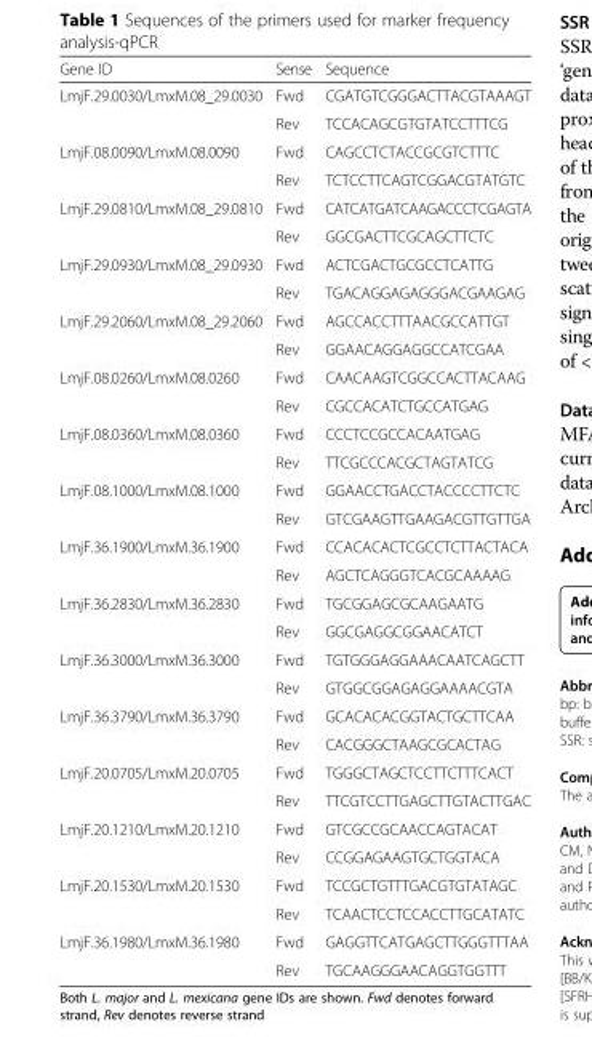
<table><thead><tr><td>Gene ID</td><td>Sense</td><td>Sequence</td></tr></thead><tbody><tr><td rowspan="2">LmjF.29.0030/LmxM.08_29.0030</td><td>Fwd</td><td>CGATGTCGGGACTTACGTAAAGT</td></tr><tr><td>Rev</td><td>TCCACAGCGTGTATCCTTTCG</td></tr><tr><td rowspan="2">LmjF.08.0090/LmxM.08.0090</td><td>Fwd</td><td>CAGCCTCTACCGCGTCTTTC</td></tr><tr><td>Rev</td><td>TCTCCTTCAGTCGGACGTATGTC</td></tr><tr><td rowspan="2">LmjF.29.0810/LmxM.08_29.0810</td><td>Fwd</td><td>CATCATGATCAAGACCCTCGAGTA</td></tr><tr><td>Rev</td><td>GGCGACTTCGCAGCTTCTC</td></tr><tr><td rowspan="2">LmjF.29.0930/LmxM.08_29.0930</td><td>Fwd</td><td>ACTCGACTGCGCCTCATTG</td></tr><tr><td>Rev</td><td>TGACAGGAGAGGGACGAAGAG</td></tr><tr><td rowspan="2">LmjF.29.2060/LmxM.08_29.2060</td><td>Fwd</td><td>AGCCACCTTTAACGCCATTGT</td></tr><tr><td>Rev</td><td>GGAACAGGAGGCCATCGAA</td></tr><tr><td rowspan="2">LmjF.08.0260/LmxM.08.0260</td><td>Fwd</td><td>CAACAAGTCGGCCACTTACAAG</td></tr><tr><td>Rev</td><td>CGCCACATCTGCCATGAG</td></tr><tr><td rowspan="2">LmjF.08.0360/LmxM.08.0360</td><td>Fwd</td><td>CCCTCCGCCACAATGAG</td></tr><tr><td>Rev</td><td>TTCGCCCACGCTAGTATCG</td></tr><tr><td rowspan="2">LmjF.08.1000/LmxM.08.1000</td><td>Fwd</td><td>GGAACCTGACCTACCCCTTCTC</td></tr><tr><td>Rev</td><td>GTCGAAGTTGAAGACGTTGTTGA</td></tr><tr><td rowspan="2">LmjF.36.1900/LmxM.36.1900</td><td>Fwd</td><td>CCACACACTCGCCTCTTACTACA</td></tr><tr><td>Rev</td><td>AGCTCAGGGTCACGCAAAAG</td></tr><tr><td rowspan="2">LmjF.36.2830/LmxM.36.2830</td><td>Fwd</td><td>TGCGGAGCGCAAGAATG</td></tr><tr><td>Rev</td><td>GGCGAGGCGGAACATCT</td></tr><tr><td rowspan="2">LmjF.36.3000/LmxM.36.3000</td><td>Fwd</td><td>TGTGGGAGGAAACAATCAGCTT</td></tr><tr><td>Rev</td><td>GTGGCGGAGAGGAAAACGTA</td></tr><tr><td rowspan="2">LmjF.36.3790/LmxM.36.3790</td><td>Fwd</td><td>GCACACACGGTACTGCTTCAA</td></tr><tr><td>Rev</td><td>CACGGGCTAAGCGCACTAG</td></tr><tr><td rowspan="2">LmjF.20.0705/LmxM.20.0705</td><td>Fwd</td><td>TGGGCTAGCTCCTTCTTTCACT</td></tr><tr><td>Rev</td><td>TTCGTCCTTGAGCTTGTACTTGAC</td></tr><tr><td rowspan="2">LmjF.20.1210/LmxM.20.1210</td><td>Fwd</td><td>GTCGCCGCAACCAGTACAT</td></tr><tr><td>Rev</td><td>CCGGAGAAGTGCTGGTACA</td></tr><tr><td rowspan="2">LmjF.20.1530/LmxM.20.1530</td><td>Fwd</td><td>TCCGCTGTTTGACGTGTATAGC</td></tr><tr><td>Rev</td><td>TCAACTCCTCCACCTTGCATATC</td></tr><tr><td rowspan="2">LmjF.36.1980/LmxM.36.1980</td><td>Fwd</td><td>GAGGTTCATGAGCTTGGGTTTAA</td></tr><tr><td>Rev</td><td>TGCAAGGGAACAGGTGGTTT</td></tr></tbody></table>